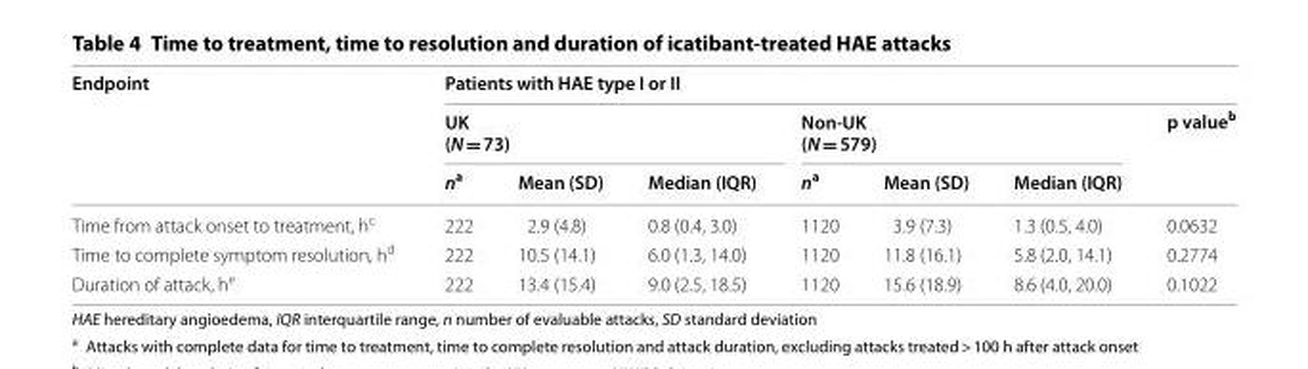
<table><thead><tr><td rowspan="3">Endpoint</td><td colspan="7">Patients with HAE type I or II</td></tr><tr><td colspan="3">UK (N = 73)</td><td colspan="3">Non-UK (N = 579)</td><td rowspan="2">p value<sup>b</sup></td></tr><tr><td>n<sup>a</sup></td><td>Mean (SD)</td><td>Median (IQR)</td><td>n<sup>a</sup></td><td>Mean (SD)</td><td>Median (IQR)</td></tr></thead><tbody><tr><td>Time from attack onset to treatment, h<sup>c</sup></td><td>222</td><td>2.9 (4.8)</td><td>0.8 (0.4, 3.0)</td><td>1120</td><td>3.9 (7.3)</td><td>1.3 (0.5, 4.0)</td><td>0.0632</td></tr><tr><td>Time to complete symptom resolution, h<sup>d</sup></td><td>222</td><td>10.5 (14.1)</td><td>6.0 (1.3, 14.0)</td><td>1120</td><td>11.8 (16.1)</td><td>5.8 (2.0, 14.1)</td><td>0.2774</td></tr><tr><td>Duration of attack, h<sup>e</sup></td><td>222</td><td>13.4 (15.4)</td><td>9.0 (2.5, 18.5)</td><td>1120</td><td>15.6 (18.9)</td><td>8.6 (4.0, 20.0)</td><td>0.1022</td></tr></tbody></table>